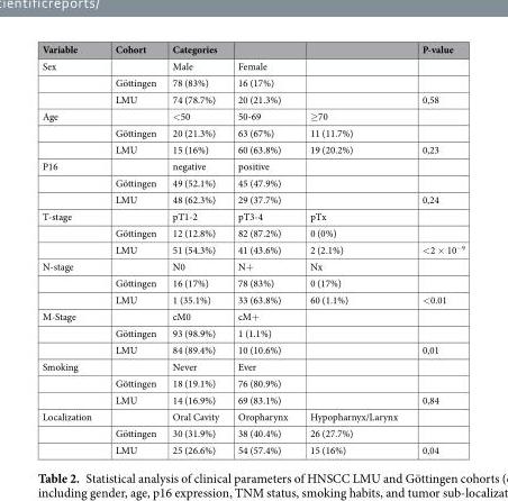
<table><thead><tr><td>Variable</td><td>Cohort</td><td>Categories</td><td></td><td></td><td>P-value</td></tr></thead><tbody><tr><td rowspan="3">Sex</td><td></td><td>Male</td><td>Female</td><td></td><td></td></tr><tr><td>Göttingen</td><td>78 (83%)</td><td>16 (17%)</td><td></td><td></td></tr><tr><td>LMU</td><td>74 (78.7%)</td><td>20 (21.3%)</td><td></td><td>0,58</td></tr><tr><td rowspan="3">Age</td><td></td><td>&lt;50</td><td>50-69</td><td>≥70</td><td></td></tr><tr><td>Göttingen</td><td>20 (21.3%)</td><td>63 (67%)</td><td>11 (11.7%)</td><td></td></tr><tr><td>LMU</td><td>15 (16%)</td><td>60 (63.8%)</td><td>19 (20.2%)</td><td>0,23</td></tr><tr><td rowspan="3">P16</td><td></td><td>negative</td><td>positive</td><td></td><td></td></tr><tr><td>Göttingen</td><td>49 (52.1%)</td><td>45 (47.9%)</td><td></td><td></td></tr><tr><td>LMU</td><td>48 (62.3%)</td><td>29 (37.7%)</td><td></td><td>0,24</td></tr><tr><td rowspan="3">T-stage</td><td></td><td>pT1-2</td><td>pT3-4</td><td>pTx</td><td></td></tr><tr><td>Göttingen</td><td>12 (12.8%)</td><td>82 (87.2%)</td><td>0 (0%)</td><td></td></tr><tr><td>LMU</td><td>51 (54.3%)</td><td>41 (43.6%)</td><td>2 (2.1%)</td><td>&lt;2 × 10<sup>−9</sup></td></tr><tr><td rowspan="3">N-stage</td><td></td><td>N0</td><td>N+</td><td>Nx</td><td></td></tr><tr><td>Göttingen</td><td>16 (17%)</td><td>78 (83%)</td><td>0 (17%)</td><td></td></tr><tr><td>LMU</td><td>1 (35.1%)</td><td>33 (63.8%)</td><td>60 (1.1%)</td><td>&lt;0.01</td></tr><tr><td rowspan="3">M-Stage</td><td></td><td>cM0</td><td>cM+</td><td></td><td></td></tr><tr><td>Göttingen</td><td>93 (98.9%)</td><td>1 (1.1%)</td><td></td><td></td></tr><tr><td>LMU</td><td>84 (89.4%)</td><td>10 (10.6%)</td><td></td><td>0,01</td></tr><tr><td rowspan="3">Smoking</td><td></td><td>Never</td><td>Ever</td><td></td><td></td></tr><tr><td>Göttingen</td><td>18 (19.1%)</td><td>76 (80.9%)</td><td></td><td></td></tr><tr><td>LMU</td><td>14 (16.9%)</td><td>69 (83.1%)</td><td></td><td>0,84</td></tr><tr><td rowspan="3">Localization</td><td></td><td>Oral Cavity</td><td>Oropharynx</td><td>Hypopharnyx/Larynx</td><td></td></tr><tr><td>Göttingen</td><td>30 (31.9%)</td><td>38 (40.4%)</td><td>26 (27.7%)</td><td></td></tr><tr><td>LMU</td><td>25 (26.6%)</td><td>54 (57.4%)</td><td>15 (16%)</td><td>0,04</td></tr></tbody></table>